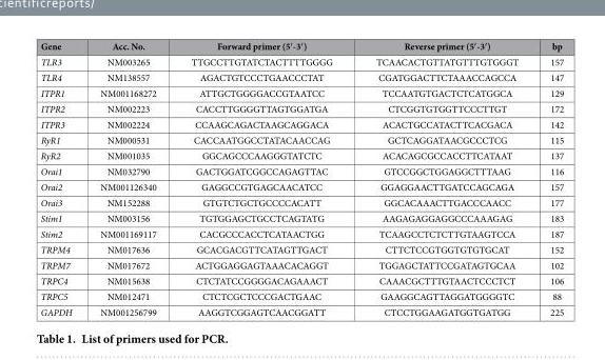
<table><thead><tr><td>Gene</td><td>Acc. No.</td><td>Forward primer (5′ -3′ )</td><td>Reverse primer (5′ -3′ )</td><td>bp</td></tr></thead><tbody><tr><td>TLR3</td><td>NM003265</td><td>TTGCCTTGTATCTACTTTTGGGG</td><td>TCAACACTGTTATGTTTGTGGGT</td><td>157</td></tr><tr><td>TLR4</td><td>NM138557</td><td>AGACTGTCCCTGAACCCTAT</td><td>CGATGGACTTCTAAACCAGCCA</td><td>147</td></tr><tr><td>ITPR1</td><td>NM001168272</td><td>ATTGCTGGGGACCGTAATCC</td><td>TCCAATGTGACTCTCATGGCA</td><td>129</td></tr><tr><td>ITPR2</td><td>NM002223</td><td>CACCTTGGGGTTAGTGGATGA</td><td>CTCGGTGTGGTTCCCTTGT</td><td>172</td></tr><tr><td>ITPR3</td><td>NM002224</td><td>CCAAGCAGACTAAGCAGGACA</td><td>ACACTGCCATACTTCACGACA</td><td>142</td></tr><tr><td>RyR1</td><td>NM000531</td><td>CACCAATGGCCTATACAACCAG</td><td>GCTCAGGATAACGCCCTCG</td><td>115</td></tr><tr><td>RyR2</td><td>NM001035</td><td>GGCAGCCCAAGGGTATCTC</td><td>ACACAGCGCCACCTTCATAAT</td><td>137</td></tr><tr><td>Orai1</td><td>NM032790</td><td>GACTGGATCGGCCAGAGTTAC</td><td>GTCCGGCTGGAGGCTTTAAG</td><td>116</td></tr><tr><td>Orai2</td><td>NM001126340</td><td>GAGGCCGTGAGCAACATCC</td><td>GGAGGAACTTGATCCAGCAGA</td><td>157</td></tr><tr><td>Orai3</td><td>NM152288</td><td>GTGTCTGCTGCCCCACATT</td><td>GGCACAAACTTGACCCAACC</td><td>177</td></tr><tr><td>Stim1</td><td>NM003156</td><td>TGTGGAGCTGCCTCAGTATG</td><td>AAGAGAGGAGGCCCAAAGAG</td><td>183</td></tr><tr><td>Stim2</td><td>NM001169117</td><td>CACGCCCACCTCATAACTGG</td><td>TCAAGCCTCTCTTGTAAGTCCA</td><td>187</td></tr><tr><td>TRPM4</td><td>NM017636</td><td>GCACGACGTTCATAGTTGACT</td><td>CTTCTCCGTGGTGTGTGCAT</td><td>152</td></tr><tr><td>TRPM7</td><td>NM017672</td><td>ACTGGAGGAGTAAACACAGGT</td><td>TGGAGCTATTCCGATAGTGCAA</td><td>102</td></tr><tr><td>TRPC4</td><td>NM015638</td><td>CTCTATCCGGGGACAGAAACT</td><td>CAAACGCTTTGTAACTCCCTCT</td><td>106</td></tr><tr><td>TRPC5</td><td>NM012471</td><td>CTCTCGCTCCCGACTGAAC</td><td>GAAGGCAGTTAGGATGGGGTC</td><td>88</td></tr><tr><td>GAPDH</td><td>NM001256799</td><td>AAGGTCGGAGTCAACGGATT</td><td>CTCCTGGAAGATGGTGATGG</td><td>225</td></tr></tbody></table>